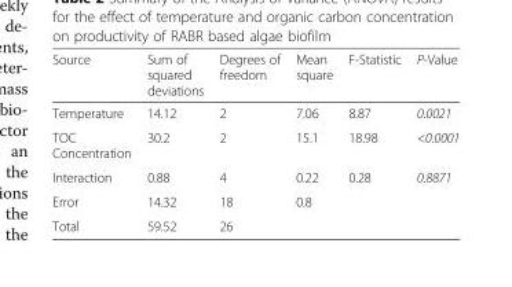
<table><thead><tr><td>Source</td><td>Sum of squared deviations</td><td>Degrees of freedom</td><td>Mean square</td><td>F-Statistic</td><td>P-Value</td></tr></thead><tbody><tr><td>Temperature</td><td>14.12</td><td>2</td><td>7.06</td><td>8.87</td><td>0.0021</td></tr><tr><td>TOC Concentration</td><td>30.2</td><td>2</td><td>15.1</td><td>18.98</td><td>&lt;0.0001</td></tr><tr><td>Interaction</td><td>0.88</td><td>4</td><td>0.22</td><td>0.28</td><td>0.8871</td></tr><tr><td>Error</td><td>14.32</td><td>18</td><td>0.8</td><td></td><td></td></tr><tr><td>Total</td><td>59.52</td><td>26</td><td></td><td></td><td></td></tr></tbody></table>